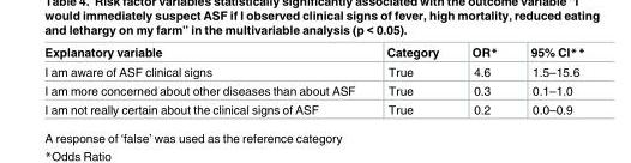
<table><thead><tr><td>Explanatory variable</td><td>Category</td><td>OR*</td><td>95% CI**</td></tr></thead><tbody><tr><td>I am aware of ASF clinical signs</td><td>True</td><td>4.6</td><td>1.5–15.6</td></tr><tr><td>I am more concerned about other diseases than about ASF</td><td>True</td><td>0.3</td><td>0.1–1.0</td></tr><tr><td>I am not really certain about the clinical signs of ASF</td><td>True</td><td>0.2</td><td>0.0–0.9</td></tr></tbody></table>